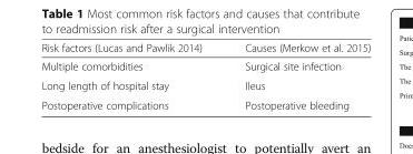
<table><thead><tr><td>Risk factors (Lucas and Pawlik 2014)</td><td>Causes (Merkow et al. 2015)</td></tr></thead><tbody><tr><td>Multiple comorbidities</td><td>Surgical site infection</td></tr><tr><td>Long length of hospital stay</td><td>Ileus</td></tr><tr><td>Postoperative complications</td><td>Postoperative bleeding</td></tr></tbody></table>